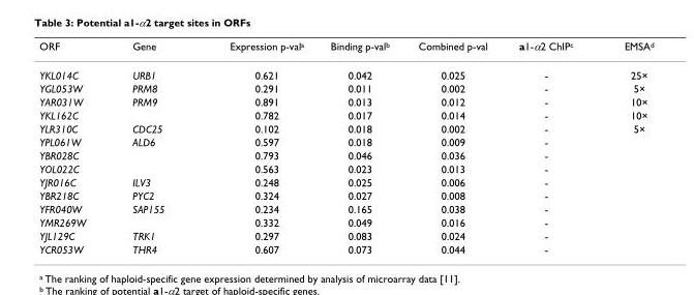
<table><thead><tr><td>ORF</td><td>Gene</td><td>Expression p-val<sup>a</sup></td><td>Binding p-val<sup>b</sup></td><td>Combined p-val</td><td>a1-α2 ChIP<sup>c</sup></td><td>EMSA<sup>d</sup></td></tr></thead><tbody><tr><td>YKL014C</td><td>URB1</td><td>0.621</td><td>0.042</td><td>0.025</td><td>-</td><td>25×</td></tr><tr><td>YGL053W</td><td>PRM8</td><td>0.291</td><td>0.011</td><td>0.002</td><td>-</td><td>5×</td></tr><tr><td>YAR031W</td><td>PRM9</td><td>0.891</td><td>0.013</td><td>0.012</td><td>-</td><td>10×</td></tr><tr><td>YKL162C</td><td></td><td>0.782</td><td>0.017</td><td>0.014</td><td>-</td><td>10×</td></tr><tr><td>YLR310C</td><td>CDC25</td><td>0.102</td><td>0.018</td><td>0.002</td><td>-</td><td>5×</td></tr><tr><td>YPL061W</td><td>ALD6</td><td>0.597</td><td>0.018</td><td>0.009</td><td>-</td><td></td></tr><tr><td>YBR028C</td><td></td><td>0.793</td><td>0.046</td><td>0.036</td><td>-</td><td></td></tr><tr><td>YOL022C</td><td></td><td>0.563</td><td>0.023</td><td>0.013</td><td>-</td><td></td></tr><tr><td>YJR016C</td><td>ILV3</td><td>0.248</td><td>0.025</td><td>0.006</td><td>-</td><td></td></tr><tr><td>YBR218C</td><td>PYC2</td><td>0.324</td><td>0.027</td><td>0.008</td><td>-</td><td></td></tr><tr><td>YFR040W</td><td>SAP155</td><td>0.234</td><td>0.165</td><td>0.038</td><td>-</td><td></td></tr><tr><td>YMR269W</td><td></td><td>0.332</td><td>0.049</td><td>0.016</td><td>-</td><td></td></tr><tr><td>YJL129C</td><td>TRK1</td><td>0.297</td><td>0.083</td><td>0.024</td><td>-</td><td></td></tr><tr><td>YCR053W</td><td>THR4</td><td>0.607</td><td>0.073</td><td>0.044</td><td>-</td><td></td></tr></tbody></table>